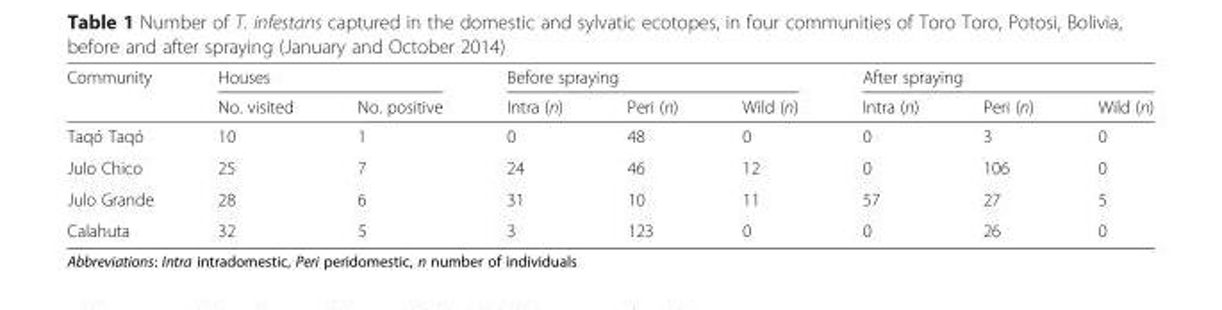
<table><thead><tr><td rowspan="2">Community</td><td colspan="2">Houses</td><td colspan="3">Before spraying</td><td colspan="3">After spraying</td></tr><tr><td>No. visited</td><td>No. positive</td><td>Intra (n)</td><td>Peri (n)</td><td>Wild (n)</td><td>Intra (n)</td><td>Peri (n)</td><td>Wild (n)</td></tr></thead><tbody><tr><td>Taqó Taqó</td><td>10</td><td>1</td><td>0</td><td>48</td><td>0</td><td>0</td><td>3</td><td>0</td></tr><tr><td>Julo Chico</td><td>25</td><td>7</td><td>24</td><td>46</td><td>12</td><td>0</td><td>106</td><td>0</td></tr><tr><td>Julo Grande</td><td>28</td><td>6</td><td>31</td><td>10</td><td>11</td><td>57</td><td>27</td><td>5</td></tr><tr><td>Calahuta</td><td>32</td><td>5</td><td>3</td><td>123</td><td>0</td><td>0</td><td>26</td><td>0</td></tr></tbody></table>